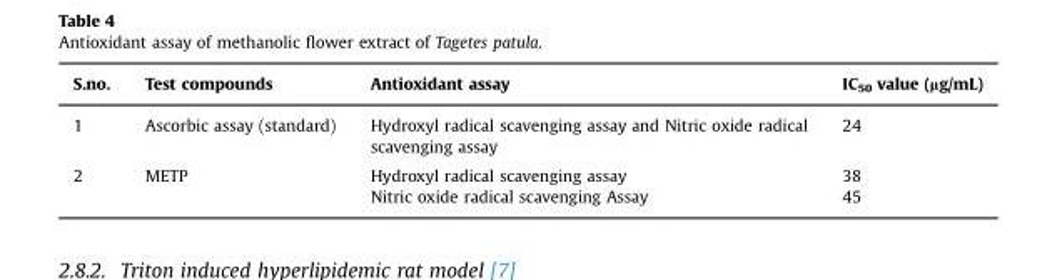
<table><thead><tr><td>S.no.</td><td>Test compounds</td><td>Antioxidant assay</td><td>IC<sub>50</sub> value (µg/mL)</td></tr></thead><tbody><tr><td>1</td><td>Ascorbic assay (standard)</td><td>Hydroxyl radical scavenging assay and Nitric oxide radical scavenging assay</td><td>24</td></tr><tr><td rowspan="2">2</td><td rowspan="2">METP</td><td>Hydroxyl radical scavenging assay</td><td>38</td></tr><tr><td>Nitric oxide radical scavenging Assay</td><td>45</td></tr></tbody></table>